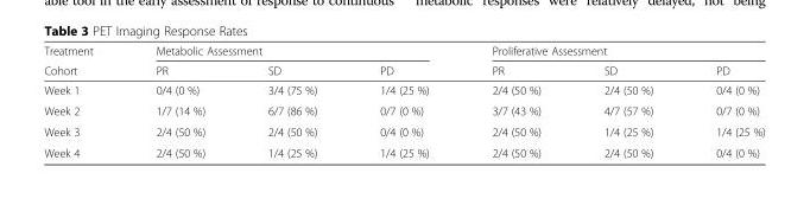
<table><thead><tr><td rowspan="2">Treatment Cohort</td><td colspan="3">Metabolic Assessment</td><td colspan="3">Proliferative Assessment</td></tr><tr><td>PR</td><td>SD</td><td>PD</td><td>PR</td><td>SD</td><td>PD</td></tr></thead><tbody><tr><td>Week 1</td><td>0/4 (0 %)</td><td>3/4 (75 %)</td><td>1/4 (25 %)</td><td>2/4 (50 %)</td><td>2/4 (50 %)</td><td>0/4 (0 %)</td></tr><tr><td>Week 2</td><td>1/7 (14 %)</td><td>6/7 (86 %)</td><td>0/7 (0 %)</td><td>3/7 (43 %)</td><td>4/7 (57 %)</td><td>0/7 (0 %)</td></tr><tr><td>Week 3</td><td>2/4 (50 %)</td><td>2/4 (50 %)</td><td>0/4 (0 %)</td><td>2/4 (50 %)</td><td>1/4 (25 %)</td><td>1/4 (25 %)</td></tr><tr><td>Week 4</td><td>2/4 (50 %)</td><td>1/4 (25 %)</td><td>1/4 (25 %)</td><td>2/4 (50 %)</td><td>2/4 (50 %)</td><td>0/4 (0 %)</td></tr></tbody></table>